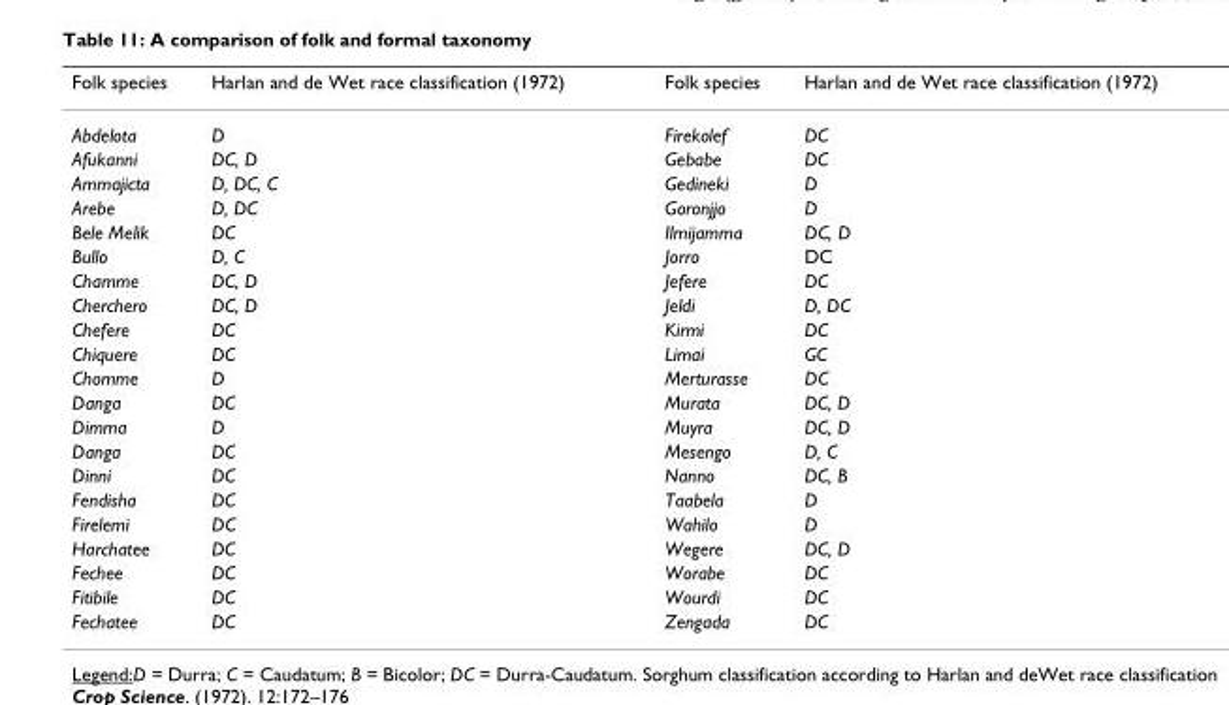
<table><thead><tr><td>Folk species</td><td>Harlan and de Wet race classification (1972)</td><td>Folk species</td><td>Harlan and de Wet race classification (1972)</td></tr></thead><tbody><tr><td>Abdelota</td><td>D</td><td>Firekolef</td><td>DC</td></tr><tr><td>Afukanni</td><td>DC, D</td><td>Gebabe</td><td>DC</td></tr><tr><td>Ammajicta</td><td>D, DC, C</td><td>Gedineki</td><td>D</td></tr><tr><td>Arebe</td><td>D, DC</td><td>Goronjjo</td><td>D</td></tr><tr><td>Bele Melik</td><td>DC</td><td>Ilmijamma</td><td>DC, D</td></tr><tr><td>Bullo</td><td>D, C</td><td>Jorro</td><td>DC</td></tr><tr><td>Chamme</td><td>DC, D</td><td>Jefere</td><td>DC</td></tr><tr><td>Cherchero</td><td>DC, D</td><td>Jeldi</td><td>D, DC</td></tr><tr><td>Chefere</td><td>DC</td><td>Kirmi</td><td>DC</td></tr><tr><td>Chiquere</td><td>DC</td><td>Limai</td><td>GC</td></tr><tr><td>Chomme</td><td>D</td><td>Merturasse</td><td>DC</td></tr><tr><td>Danga</td><td>DC</td><td>Murata</td><td>DC, D</td></tr><tr><td>Dimma</td><td>D</td><td>Muyra</td><td>DC, D</td></tr><tr><td>Danga</td><td>DC</td><td>Mesengo</td><td>D, C</td></tr><tr><td>Dinni</td><td>DC</td><td>Nanno</td><td>DC, B</td></tr><tr><td>Fendisha</td><td>DC</td><td>Taabela</td><td>D</td></tr><tr><td>Firelemi</td><td>DC</td><td>Wahilo</td><td>D</td></tr><tr><td>Harchatee</td><td>DC</td><td>Wegere</td><td>DC, D</td></tr><tr><td>Fechee</td><td>DC</td><td>Worabe</td><td>DC</td></tr><tr><td>Fitibile</td><td>DC</td><td>Wourdi</td><td>DC</td></tr><tr><td>Fechatee</td><td>DC</td><td>Zengada</td><td>DC</td></tr></tbody></table>